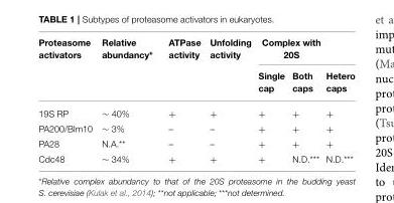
<table><thead><tr><td rowspan="2">Proteasome activators</td><td rowspan="2">Relative abundancy*</td><td rowspan="2">ATPase activity</td><td rowspan="2">Unfolding activity</td><td colspan="3">Complex with 20S</td></tr><tr><td>Single cap</td><td>Both caps</td><td>Hetero caps</td></tr></thead><tbody><tr><td>19S RP</td><td>∼ 40%</td><td>+</td><td>+</td><td>+</td><td>+</td><td>+</td></tr><tr><td>PA200/Blm10</td><td>∼ 3%</td><td>–</td><td>–</td><td>+</td><td>+</td><td>+</td></tr><tr><td>PA28</td><td>N.A.**</td><td>–</td><td>–</td><td>+</td><td>+</td><td>+</td></tr><tr><td>Cdc48</td><td>∼ 34%</td><td>+</td><td>+</td><td>+</td><td>N.D.***</td><td>N.D.***</td></tr></tbody></table>